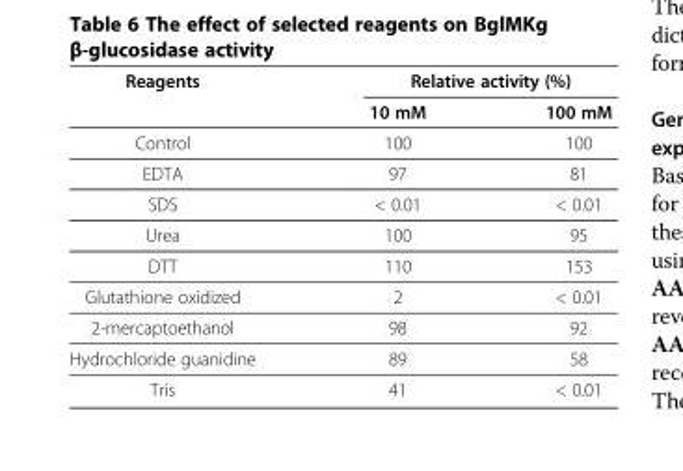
<table><thead><tr><td rowspan="2">Reagents</td><td colspan="2">Relative activity (%)</td></tr><tr><td>10 mM</td><td>100 mM</td></tr></thead><tbody><tr><td>Control</td><td>100</td><td>100</td></tr><tr><td>EDTA</td><td>97</td><td>81</td></tr><tr><td>SDS</td><td>&lt; 0.01</td><td>&lt; 0.01</td></tr><tr><td>Urea</td><td>100</td><td>95</td></tr><tr><td>DTT</td><td>110</td><td>153</td></tr><tr><td>Glutathione oxidized</td><td>2</td><td>&lt; 0.01</td></tr><tr><td>2-mercaptoethanol</td><td>98</td><td>92</td></tr><tr><td>Hydrochloride guanidine</td><td>89</td><td>58</td></tr><tr><td>Tris</td><td>41</td><td>&lt; 0.01</td></tr></tbody></table>